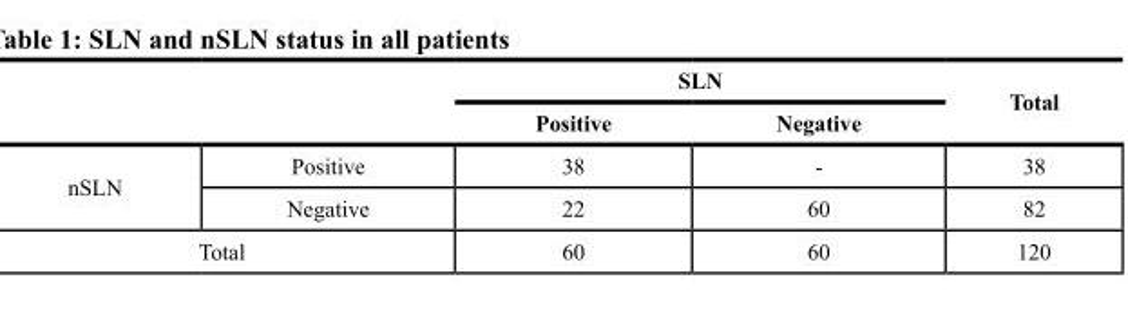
<table><thead><tr><td rowspan="2"></td><td rowspan="2"></td><td colspan="2">SLN</td><td rowspan="2">Total</td></tr><tr><td>Positive</td><td>Negative</td></tr></thead><tbody><tr><td rowspan="2">nSLN</td><td>Positive</td><td>38</td><td>-</td><td>38</td></tr><tr><td>Negative</td><td>22</td><td>60</td><td>82</td></tr><tr><td colspan="2">Total</td><td>60</td><td>60</td><td>120</td></tr></tbody></table>